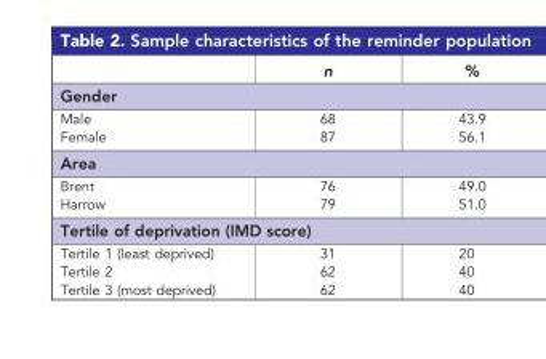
<table><thead><tr><td></td><td>n</td><td>%</td></tr></thead><tbody><tr><td colspan="3">Gender</td></tr><tr><td>Male</td><td>68</td><td>43.9</td></tr><tr><td>Female</td><td>87</td><td>56.1</td></tr><tr><td colspan="3">Area</td></tr><tr><td>Brent</td><td>76</td><td>49.0</td></tr><tr><td>Harrow</td><td>79</td><td>51.0</td></tr><tr><td colspan="3">Tertile of deprivation (IMD score)</td></tr><tr><td>Tertile 1 (least deprived)</td><td>31</td><td>20</td></tr><tr><td>Tertile 2</td><td>62</td><td>40</td></tr><tr><td>Tertile 3 (most deprived)</td><td>62</td><td>40</td></tr></tbody></table>